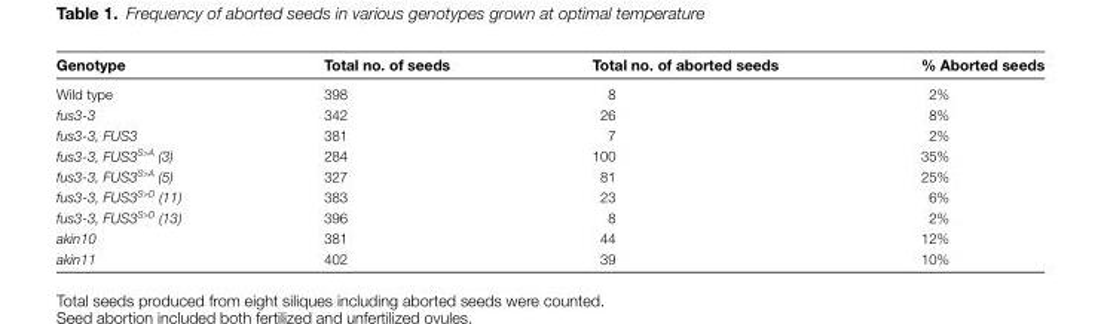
<table><thead><tr><td>Genotype</td><td>Total no. of seeds</td><td>Total no. of aborted seeds</td><td>% Aborted seeds</td></tr></thead><tbody><tr><td>Wild type</td><td>398</td><td>8</td><td>2%</td></tr><tr><td>fus3-3</td><td>342</td><td>26</td><td>8%</td></tr><tr><td>fus3-3, FUS3</td><td>381</td><td>7</td><td>2%</td></tr><tr><td>fus3-3, FUS3<sup>S&gt;A</sup> (3)</td><td>284</td><td>100</td><td>35%</td></tr><tr><td>fus3-3, FUS3<sup>S&gt;A</sup> (5)</td><td>327</td><td>81</td><td>25%</td></tr><tr><td>fus3-3, FUS3<sup>S&gt;D</sup> (11)</td><td>383</td><td>23</td><td>6%</td></tr><tr><td>fus3-3, FUS3<sup>S&gt;D</sup> (13)</td><td>396</td><td>8</td><td>2%</td></tr><tr><td>akin10</td><td>381</td><td>44</td><td>12%</td></tr><tr><td>akin11</td><td>402</td><td>39</td><td>10%</td></tr></tbody></table>